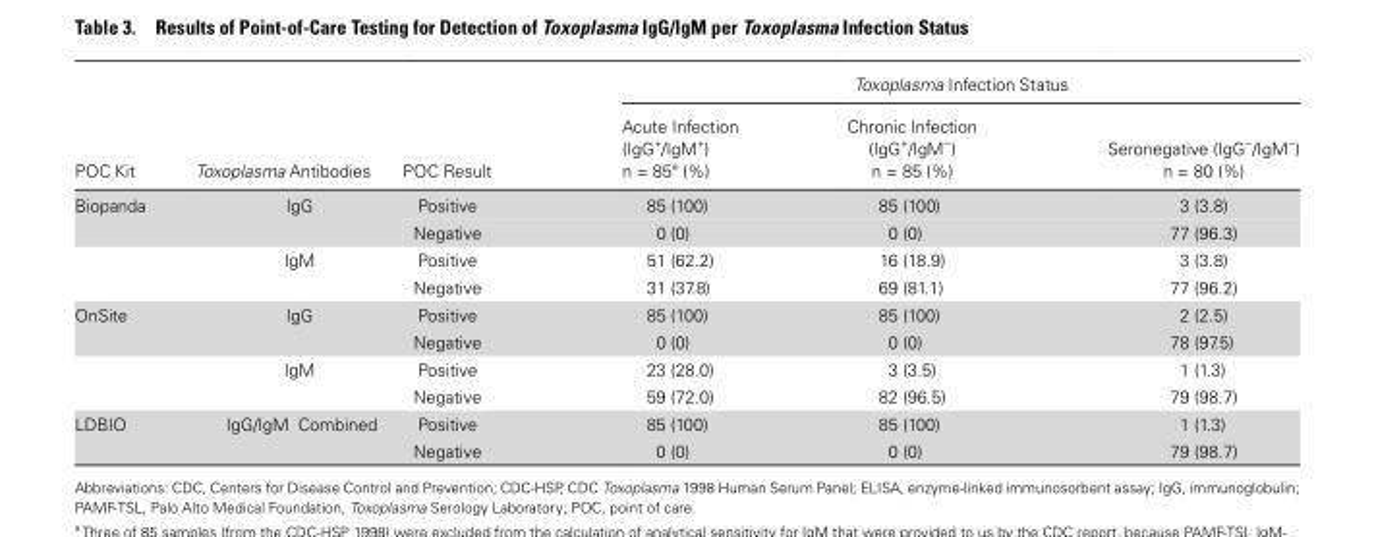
<table><thead><tr><td rowspan="2">POC Kit</td><td rowspan="2">Toxoplasma Antibodies</td><td rowspan="2">POC Result</td><td colspan="3">Toxoplasma Infection Status</td></tr><tr><td>Acute Infection (IgG<sup>+</sup>/IgM<sup>+</sup>) n = 85<sup>a</sup> (%)</td><td>Chronic Infection (IgG<sup>+</sup>/IgM<sup>−</sup>) n = 85 (%)</td><td>Seronegative (IgG<sup>−</sup>/IgM<sup>−</sup>) n = 80 (%)</td></tr></thead><tbody><tr><td rowspan="4">Biopanda</td><td rowspan="2">IgG</td><td>Positive</td><td>85 (100)</td><td>85 (100)</td><td>3 (3.8)</td></tr><tr><td>Negative</td><td>0 (0)</td><td>0 (0)</td><td>77 (96.3)</td></tr><tr><td rowspan="2">IgM</td><td>Positive</td><td>51 (62.2)</td><td>16 (18.9)</td><td>3 (3.8)</td></tr><tr><td>Negative</td><td>31 (37.8)</td><td>69 (81.1)</td><td>77 (96.2)</td></tr><tr><td rowspan="4">OnSite</td><td rowspan="2">IgG</td><td>Positive</td><td>85 (100)</td><td>85 (100)</td><td>2 (2.5)</td></tr><tr><td>Negative</td><td>0 (0)</td><td>0 (0)</td><td>78 (97.5)</td></tr><tr><td rowspan="2">IgM</td><td>Positive</td><td>23 (28.0)</td><td>3 (3.5)</td><td>1 (1.3)</td></tr><tr><td>Negative</td><td>59 (72.0)</td><td>82 (96.5)</td><td>79 (98.7)</td></tr><tr><td rowspan="2">LDBIO</td><td rowspan="2">IgG/IgM Combined</td><td>Positive</td><td>85 (100)</td><td>85 (100)</td><td>1 (1.3)</td></tr><tr><td>Negative</td><td>0 (0)</td><td>0 (0)</td><td>79 (98.7)</td></tr></tbody></table>